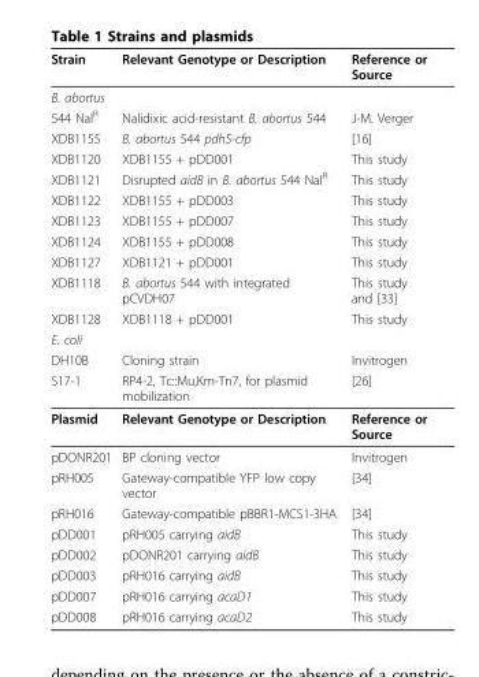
<table><thead><tr><td>Strain</td><td>Relevant Genotype or Description</td><td>Reference or Source</td></tr></thead><tbody><tr><td colspan="3">B. abortus</td></tr><tr><td>544 Nal<sup>R</sup></td><td>Nalidixic acid-resistant B. abortus 544</td><td>J-M. Verger</td></tr><tr><td>XDB1155</td><td>B. abortus 544 pdhS-cfp</td><td>[16]</td></tr><tr><td>XDB1120</td><td>XDB1155 + pDD001</td><td>This study</td></tr><tr><td>XDB1121</td><td>Disrupted aidB in B. abortus 544 Nal<sup>R</sup></td><td>This study</td></tr><tr><td>XDB1122</td><td>XDB1155 + pDD003</td><td>This study</td></tr><tr><td>XDB1123</td><td>XDB1155 + pDD007</td><td>This study</td></tr><tr><td>XDB1124</td><td>XDB1155 + pDD008</td><td>This study</td></tr><tr><td>XDB1127</td><td>XDB1121 + pDD001</td><td>This study</td></tr><tr><td>XDB1118</td><td>B. abortus 544 with integrated pCVDH07</td><td>This study and [33]</td></tr><tr><td>XDB1128</td><td>XDB1118 + pDD001</td><td>This study</td></tr><tr><td colspan="3">E. coli</td></tr><tr><td>DH10B</td><td>Cloning strain</td><td>Invitrogen</td></tr><tr><td>S17-1</td><td>RP4-2, Tc::Mu,Km-Tn7, for plasmid mobilization</td><td>[26]</td></tr><tr><td>Plasmid</td><td>Relevant Genotype or Description</td><td>Reference or Source</td></tr><tr><td>pDONR201</td><td>BP cloning vector</td><td>Invitrogen</td></tr><tr><td>pRH005</td><td>Gateway-compatible YFP low copy vector</td><td>[34]</td></tr><tr><td>pRH016</td><td>Gateway-compatible pBBR1-MCS1-3HA</td><td>[34]</td></tr><tr><td>pDD001</td><td>pRH005 carrying aidB</td><td>This study</td></tr><tr><td>pDD002</td><td>pDONR201 carrying aidB</td><td>This study</td></tr><tr><td>pDD003</td><td>pRH016 carrying aidB</td><td>This study</td></tr><tr><td>pDD007</td><td>pRH016 carrying acaD1</td><td>This study</td></tr><tr><td>pDD008</td><td>pRH016 carrying acaD2</td><td>This study</td></tr></tbody></table>